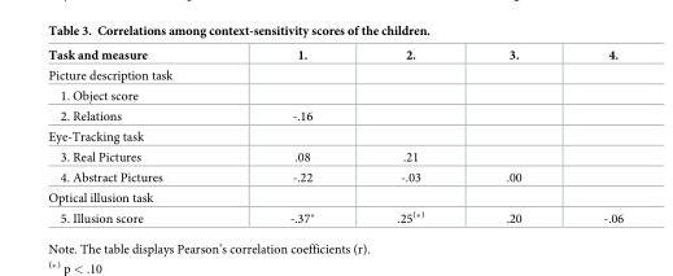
<table><thead><tr><td>Task and measure</td><td>1.</td><td>2.</td><td>3.</td><td>4.</td></tr></thead><tbody><tr><td colspan="5">Picture description task</td></tr><tr><td colspan="5">1. Object score</td></tr><tr><td>2. Relations</td><td>-.16</td><td></td><td></td><td></td></tr><tr><td colspan="5">Eye-Tracking task</td></tr><tr><td>3. Real Pictures</td><td>.08</td><td>.21</td><td></td><td></td></tr><tr><td>4. Abstract Pictures</td><td>-.22</td><td>-.03</td><td>.00</td><td></td></tr><tr><td colspan="5">Optical illusion task</td></tr><tr><td>5. Illusion score</td><td>-.37*</td><td>.25<sup>(</sup>*<sup>)</sup></td><td>.20</td><td>-.06</td></tr></tbody></table>